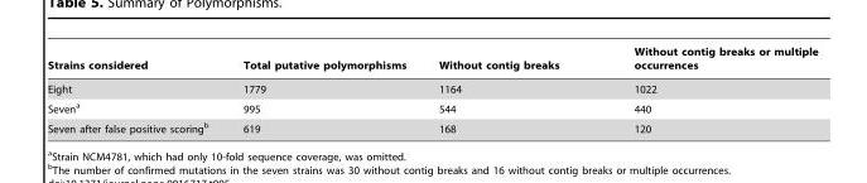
<table><thead><tr><td>Strains considered</td><td>Total putative polymorphisms</td><td>Without contig breaks</td><td>Without contig breaks or multiple occurrences</td></tr></thead><tbody><tr><td>Eight</td><td>1779</td><td>1164</td><td>1022</td></tr><tr><td>Seven<sup>a</sup></td><td>995</td><td>544</td><td>440</td></tr><tr><td>Seven after false positive scoring<sup>b</sup></td><td>619</td><td>168</td><td>120</td></tr></tbody></table>